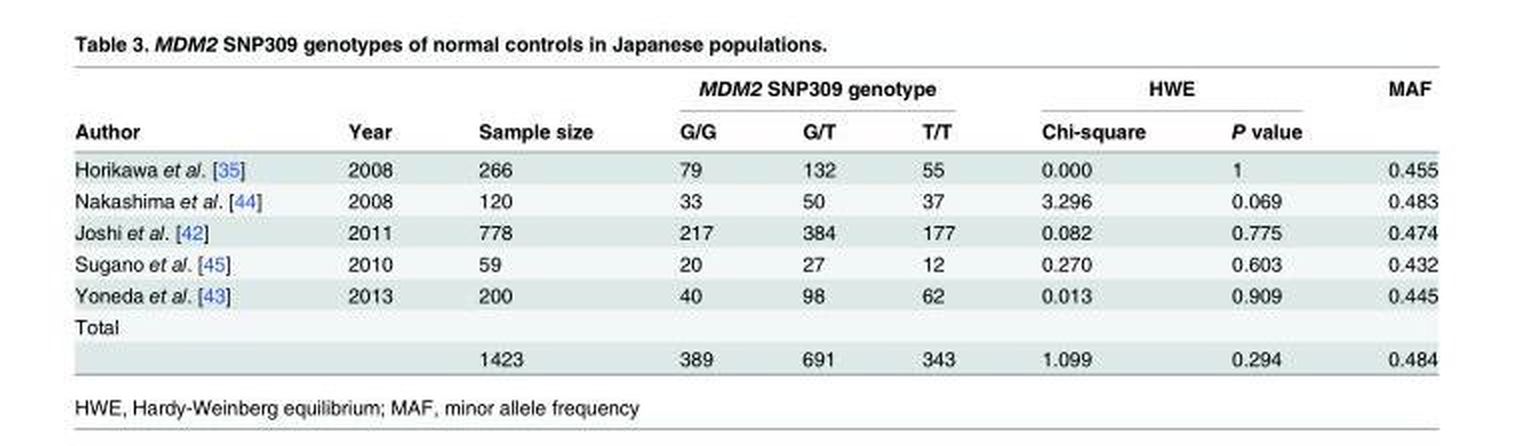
<table><thead><tr><td rowspan="2">Author</td><td rowspan="2">Year</td><td rowspan="2">Sample size</td><td colspan="3">MDM2 SNP309 genotype</td><td colspan="2">HWE</td><td rowspan="2">MAF</td></tr><tr><td>G/G</td><td>G/T</td><td>T/T</td><td>Chi-square</td><td>P value</td></tr></thead><tbody><tr><td>Horikawa et al. [35]</td><td>2008</td><td>266</td><td>79</td><td>132</td><td>55</td><td>0.000</td><td>1</td><td>0.455</td></tr><tr><td>Nakashima et al. [44]</td><td>2008</td><td>120</td><td>33</td><td>50</td><td>37</td><td>3.296</td><td>0.069</td><td>0.483</td></tr><tr><td>Joshi et al. [42]</td><td>2011</td><td>778</td><td>217</td><td>384</td><td>177</td><td>0.082</td><td>0.775</td><td>0.474</td></tr><tr><td>Sugano et al. [45]</td><td>2010</td><td>59</td><td>20</td><td>27</td><td>12</td><td>0.270</td><td>0.603</td><td>0.432</td></tr><tr><td>Yoneda et al. [43]</td><td>2013</td><td>200</td><td>40</td><td>98</td><td>62</td><td>0.013</td><td>0.909</td><td>0.445</td></tr><tr><td colspan="9">Total</td></tr><tr><td></td><td></td><td>1423</td><td>389</td><td>691</td><td>343</td><td>1.099</td><td>0.294</td><td>0.484</td></tr></tbody></table>